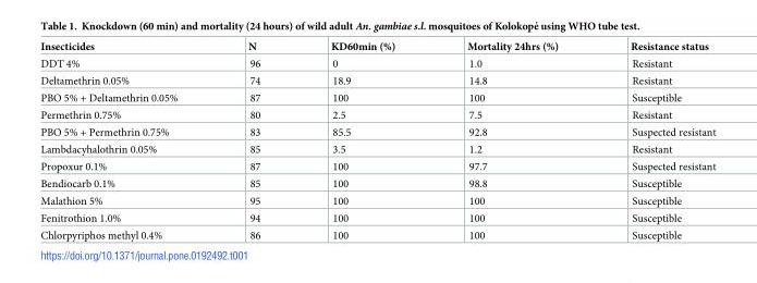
<table><thead><tr><td>Insecticides</td><td>N</td><td>KD60min (%)</td><td>Mortality 24hrs (%)</td><td>Resistance status</td></tr></thead><tbody><tr><td>DDT 4%</td><td>96</td><td>0</td><td>1.0</td><td>Resistant</td></tr><tr><td>Deltamethrin 0.05%</td><td>74</td><td>18.9</td><td>14.8</td><td>Resistant</td></tr><tr><td>PBO 5% + Deltamethrin 0.05%</td><td>87</td><td>100</td><td>100</td><td>Susceptible</td></tr><tr><td>Permethrin 0.75%</td><td>80</td><td>2.5</td><td>7.5</td><td>Resistant</td></tr><tr><td>PBO 5% + Permethrin 0.75%</td><td>83</td><td>85.5</td><td>92.8</td><td>Suspected resistant</td></tr><tr><td>Lambdacyhalothrin 0.05%</td><td>85</td><td>3.5</td><td>1.2</td><td>Resistant</td></tr><tr><td>Propoxur 0.1%</td><td>87</td><td>100</td><td>97.7</td><td>Suspected resistant</td></tr><tr><td>Bendiocarb 0.1%</td><td>85</td><td>100</td><td>98.8</td><td>Susceptible</td></tr><tr><td>Malathion 5%</td><td>95</td><td>100</td><td>100</td><td>Susceptible</td></tr><tr><td>Fenitrothion 1.0%</td><td>94</td><td>100</td><td>100</td><td>Susceptible</td></tr><tr><td>Chlorpyriphos methyl 0.4%</td><td>86</td><td>100</td><td>100</td><td>Susceptible</td></tr></tbody></table>